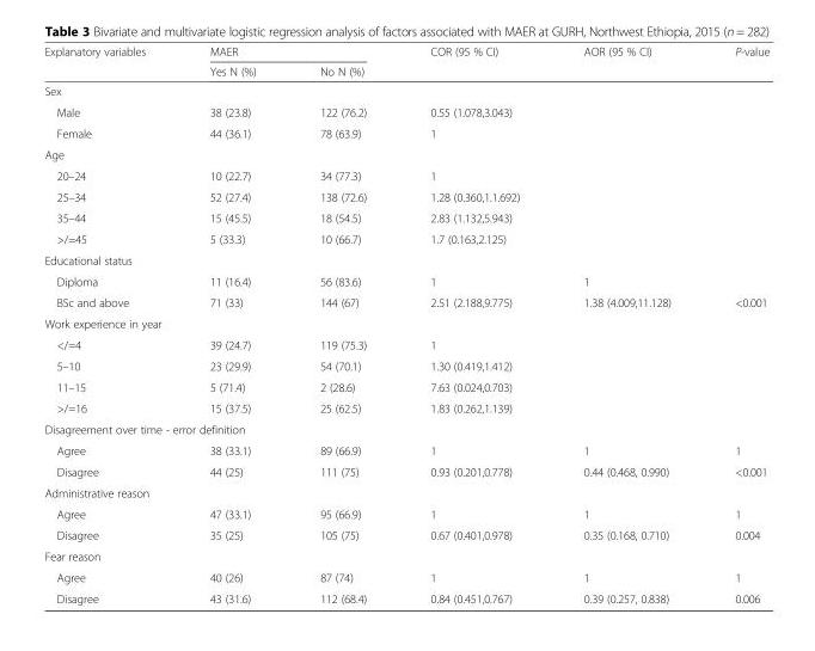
<table><thead><tr><td rowspan="2">Explanatory variables</td><td colspan="2">MAER</td><td rowspan="2">COR (95 % CI)</td><td rowspan="2">AOR (95 % CI)</td><td rowspan="2">P-value</td></tr><tr><td>Yes N (%)</td><td>No N (%)</td></tr></thead><tbody><tr><td colspan="6">Sex</td></tr><tr><td>Male</td><td>38 (23.8)</td><td>122 (76.2)</td><td>0.55 (1.078,3.043)</td><td></td><td></td></tr><tr><td>Female</td><td>44 (36.1)</td><td>78 (63.9)</td><td>1</td><td></td><td></td></tr><tr><td colspan="6">Age</td></tr><tr><td>20–24</td><td>10 (22.7)</td><td>34 (77.3)</td><td>1</td><td></td><td></td></tr><tr><td>25–34</td><td>52 (27.4)</td><td>138 (72.6)</td><td>1.28 (0.360,1.1.692)</td><td></td><td></td></tr><tr><td>35–44</td><td>15 (45.5)</td><td>18 (54.5)</td><td>2.83 (1.132,5.943)</td><td></td><td></td></tr><tr><td>&gt;/=45</td><td>5 (33.3)</td><td>10 (66.7)</td><td>1.7 (0.163,2.125)</td><td></td><td></td></tr><tr><td colspan="6">Educational status</td></tr><tr><td>Diploma</td><td>11 (16.4)</td><td>56 (83.6)</td><td>1</td><td>1</td><td></td></tr><tr><td>BSc and above</td><td>71 (33)</td><td>144 (67)</td><td>2.51 (2.188,9.775)</td><td>1.38 (4.009,11.128)</td><td>&lt;0.001</td></tr><tr><td colspan="6">Work experience in year</td></tr><tr><td>&lt;/=4</td><td>39 (24.7)</td><td>119 (75.3)</td><td>1</td><td></td><td></td></tr><tr><td>5–10</td><td>23 (29.9)</td><td>54 (70.1)</td><td>1.30 (0.419,1.412)</td><td></td><td></td></tr><tr><td>11–15</td><td>5 (71.4)</td><td>2 (28.6)</td><td>7.63 (0.024,0.703)</td><td></td><td></td></tr><tr><td>&gt;/=16</td><td>15 (37.5)</td><td>25 (62.5)</td><td>1.83 (0.262,1.139)</td><td></td><td></td></tr><tr><td colspan="6">Disagreement over time - error definition</td></tr><tr><td>Agree</td><td>38 (33.1)</td><td>89 (66.9)</td><td>1</td><td>1</td><td>1</td></tr><tr><td>Disagree</td><td>44 (25)</td><td>111 (75)</td><td>0.93 (0.201,0.778)</td><td>0.44 (0.468, 0.990)</td><td>&lt;0.001</td></tr><tr><td colspan="6">Administrative reason</td></tr><tr><td>Agree</td><td>47 (33.1)</td><td>95 (66.9)</td><td>1</td><td>1</td><td>1</td></tr><tr><td>Disagree</td><td>35 (25)</td><td>105 (75)</td><td>0.67 (0.401,0.978)</td><td>0.35 (0.168, 0.710)</td><td>0.004</td></tr><tr><td colspan="6">Fear reason</td></tr><tr><td>Agree</td><td>40 (26)</td><td>87 (74)</td><td>1</td><td>1</td><td>1</td></tr><tr><td>Disagree</td><td>43 (31.6)</td><td>112 (68.4)</td><td>0.84 (0.451,0.767)</td><td>0.39 (0.257, 0.838)</td><td>0.006</td></tr></tbody></table>